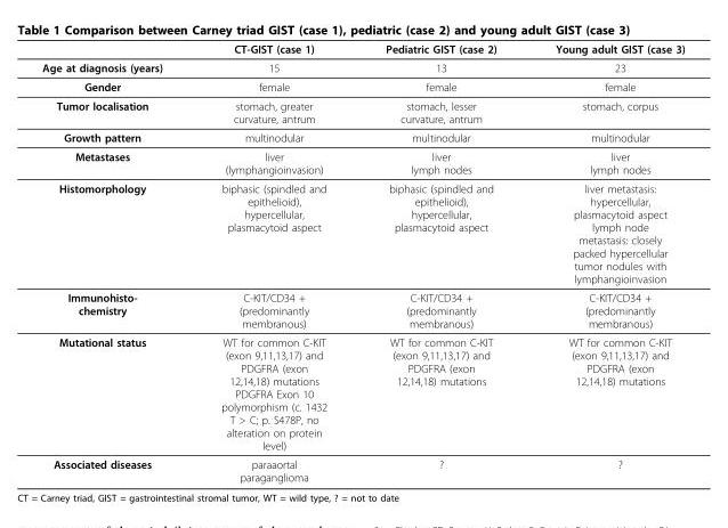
<table><thead><tr><td></td><td>CT-GIST (case 1)</td><td>Pediatric GIST (case 2)</td><td>Young adult GIST (case 3)</td></tr></thead><tbody><tr><td>Age at diagnosis (years)</td><td>15</td><td>13</td><td>23</td></tr><tr><td>Gender</td><td>female</td><td>female</td><td>female</td></tr><tr><td>Tumor localisation</td><td>stomach, greater curvature, antrum</td><td>stomach, lesser curvature, antrum</td><td>stomach, corpus</td></tr><tr><td>Growth pattern</td><td>multinodular</td><td>multinodular</td><td>multinodular</td></tr><tr><td>Metastases</td><td>liver (lymphangioinvasion)</td><td>liver lymph nodes</td><td>liver lymph nodes</td></tr><tr><td>Histomorphology</td><td>biphasic (spindled and epithelioid), hypercellular, plasmacytoid aspect</td><td>biphasic (spindled and epithelioid), hypercellular, plasmacytoid aspect</td><td>liver metastasis: hypercellular, plasmacytoid aspect lymph node metastasis: closely packed hypercellular tumor nodules with lymphangioinvasion</td></tr><tr><td>Immunohisto- chemistry</td><td>C-KIT/CD34 + (predominantly membranous)</td><td>C-KIT/CD34 + (predominantly membranous)</td><td>C-KIT/CD34 + (predominantly membranous)</td></tr><tr><td>Mutational status</td><td>WT for common C-KIT (exon 9,11,13,17) and PDGFRA (exon 12,14,18) mutations PDGFRA Exon 10 polymorphism (c. 1432 T &gt; C; p. S478P, no alteration on protein level)</td><td>WT for common C-KIT (exon 9,11,13,17) and PDGFRA (exon 12,14,18) mutations</td><td>WT for common C-KIT (exon 9,11,13,17) and PDGFRA (exon 12,14,18) mutations</td></tr><tr><td>Associated diseases</td><td>paraaortal paraganglioma</td><td>?</td><td>?</td></tr></tbody></table>